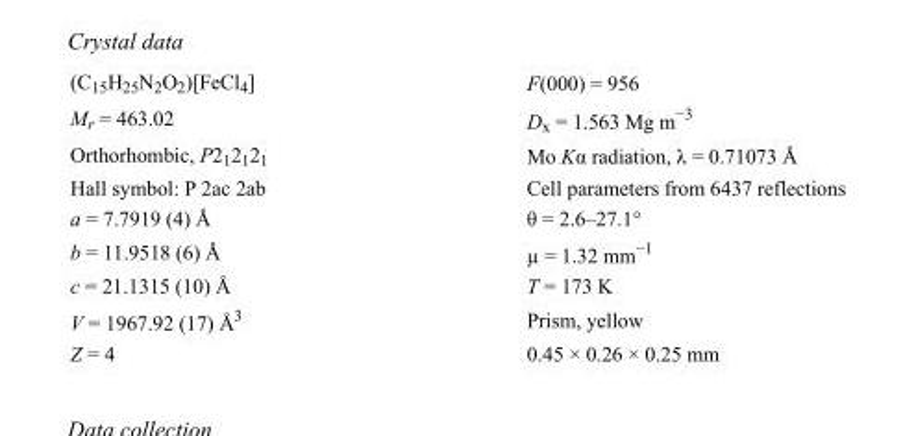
<table><tbody><tr><td>(C<sub>15</sub>H<sub>25</sub>N<sub>2</sub>O<sub>2</sub>)[FeCl<sub>4</sub>]</td><td>F(000) = 956</td></tr><tr><td>M<sub>r</sub> = 463.02</td><td>D<sub>x</sub> = 1.563 Mg m<sup>−3</sup></td></tr><tr><td>Orthorhombic, P2<sub>1</sub>2<sub>1</sub>2<sub>1</sub></td><td>Mo Kα radiation, λ = 0.71073 Å</td></tr><tr><td>Hall symbol: P 2ac 2ab</td><td>Cell parameters from 6437 reflections</td></tr><tr><td>a = 7.7919 (4) Å</td><td>θ = 2.6–27.1°</td></tr><tr><td>b = 11.9518 (6) Å</td><td>µ = 1.32 mm<sup>−1</sup></td></tr><tr><td>c = 21.1315 (10) Å</td><td>T = 173 K</td></tr><tr><td>V = 1967.92 (17) Å<sup>3</sup></td><td>Prism, yellow</td></tr><tr><td>Z = 4</td><td>0.45 × 0.26 × 0.25 mm</td></tr></tbody></table>